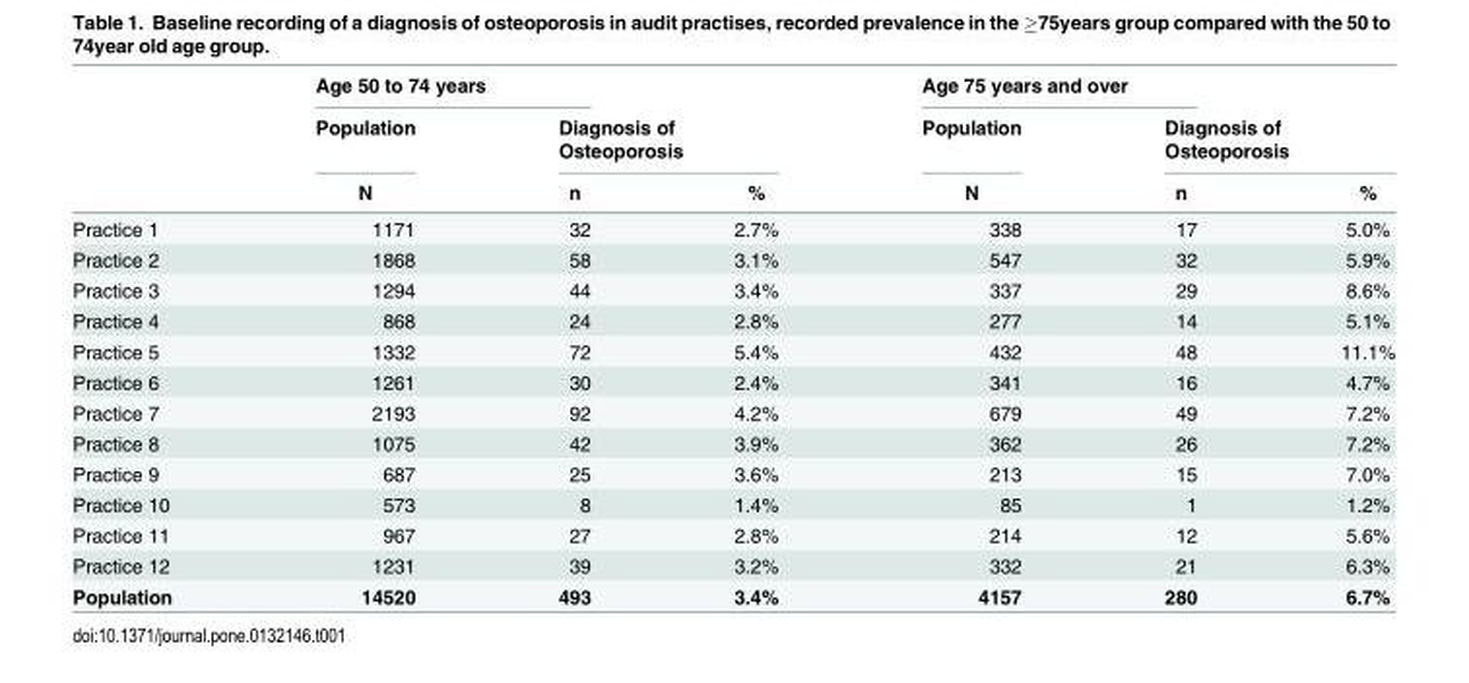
<table><thead><tr><td rowspan="3"></td><td colspan="2">Age 50 to 74 years</td><td></td><td colspan="2">Age 75 years and over</td><td></td></tr><tr><td rowspan="2">Population N</td><td colspan="2">Diagnosis of Osteoporosis</td><td rowspan="2">Population N</td><td colspan="2">Diagnosis of Osteoporosis</td></tr><tr><td>n</td><td>%</td><td>n</td><td>%</td></tr></thead><tbody><tr><td>Practice 1</td><td>1171</td><td>32</td><td>2.7%</td><td>338</td><td>17</td><td>5.0%</td></tr><tr><td>Practice 2</td><td>1868</td><td>58</td><td>3.1%</td><td>547</td><td>32</td><td>5.9%</td></tr><tr><td>Practice 3</td><td>1294</td><td>44</td><td>3.4%</td><td>337</td><td>29</td><td>8.6%</td></tr><tr><td>Practice 4</td><td>868</td><td>24</td><td>2.8%</td><td>277</td><td>14</td><td>5.1%</td></tr><tr><td>Practice 5</td><td>1332</td><td>72</td><td>5.4%</td><td>432</td><td>48</td><td>11.1%</td></tr><tr><td>Practice 6</td><td>1261</td><td>30</td><td>2.4%</td><td>341</td><td>16</td><td>4.7%</td></tr><tr><td>Practice 7</td><td>2193</td><td>92</td><td>4.2%</td><td>679</td><td>49</td><td>7.2%</td></tr><tr><td>Practice 8</td><td>1075</td><td>42</td><td>3.9%</td><td>362</td><td>26</td><td>7.2%</td></tr><tr><td>Practice 9</td><td>687</td><td>25</td><td>3.6%</td><td>213</td><td>15</td><td>7.0%</td></tr><tr><td>Practice 10</td><td>573</td><td>8</td><td>1.4%</td><td>85</td><td>1</td><td>1.2%</td></tr><tr><td>Practice 11</td><td>967</td><td>27</td><td>2.8%</td><td>214</td><td>12</td><td>5.6%</td></tr><tr><td>Practice 12</td><td>1231</td><td>39</td><td>3.2%</td><td>332</td><td>21</td><td>6.3%</td></tr><tr><td>Population</td><td>14520</td><td>493</td><td>3.4%</td><td>4157</td><td>280</td><td>6.7%</td></tr></tbody></table>